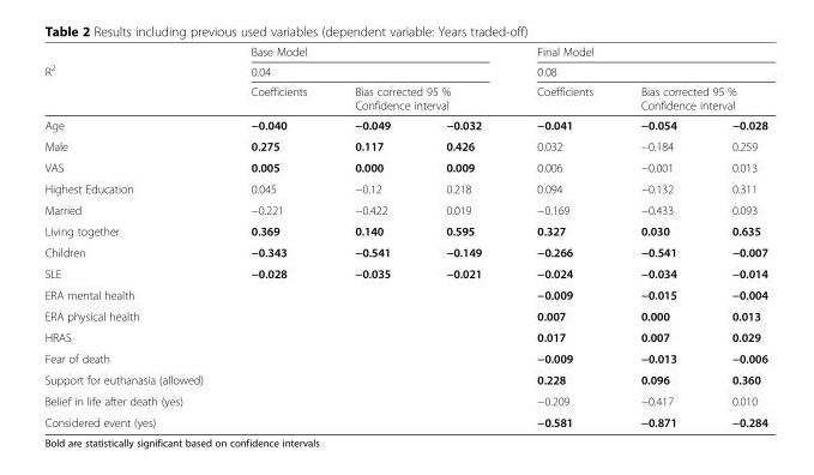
<table><thead><tr><td rowspan="4">R<sup>2</sup> Age</td><td rowspan="2" colspan="3">Base Model 0.04</td><td rowspan="2" colspan="3">Final Model 0.08</td></tr><tr></tr><tr><td rowspan="2">Coefficients −0.040</td><td colspan="2">Bias corrected 95 % Confidence interval</td><td rowspan="2">Coefficients −0.041</td><td colspan="2">Bias corrected 95 % Confidence interval</td></tr><tr><td>−0.049</td><td>−0.032</td><td>−0.054</td><td>−0.028</td></tr></thead><tbody><tr><td>Male</td><td>0.275</td><td>0.117</td><td>0.426</td><td>0.032</td><td>−0.184</td><td>0.259</td></tr><tr><td>VAS</td><td>0.005</td><td>0.000</td><td>0.009</td><td>0.006</td><td>−0.001</td><td>0.013</td></tr><tr><td>Highest Education</td><td>0.045</td><td>−0.12</td><td>0.218</td><td>0.094</td><td>−0.132</td><td>0.311</td></tr><tr><td>Married</td><td>−0.221</td><td>−0.422</td><td>0.019</td><td>−0.169</td><td>−0.433</td><td>0.093</td></tr><tr><td>Living together</td><td>0.369</td><td>0.140</td><td>0.595</td><td>0.327</td><td>0.030</td><td>0.635</td></tr><tr><td>Children</td><td>−0.343</td><td>−0.541</td><td>−0.149</td><td>−0.266</td><td>−0.541</td><td>−0.007</td></tr><tr><td>SLE</td><td>−0.028</td><td>−0.035</td><td>−0.021</td><td>−0.024</td><td>−0.034</td><td>−0.014</td></tr><tr><td>ERA mental health</td><td></td><td></td><td></td><td>−0.009</td><td>−0.015</td><td>−0.004</td></tr><tr><td>ERA physical health</td><td></td><td></td><td></td><td>0.007</td><td>0.000</td><td>0.013</td></tr><tr><td>HRAS</td><td></td><td></td><td></td><td>0.017</td><td>0.007</td><td>0.029</td></tr><tr><td>Fear of death</td><td></td><td></td><td></td><td>−0.009</td><td>−0.013</td><td>−0.006</td></tr><tr><td>Support for euthanasia (allowed)</td><td></td><td></td><td></td><td>0.228</td><td>0.096</td><td>0.360</td></tr><tr><td>Belief in life after death (yes)</td><td></td><td></td><td></td><td>−0.209</td><td>−0.417</td><td>0.010</td></tr><tr><td>Considered event (yes)</td><td></td><td></td><td></td><td>−0.581</td><td>−0.871</td><td>−0.284</td></tr></tbody></table>